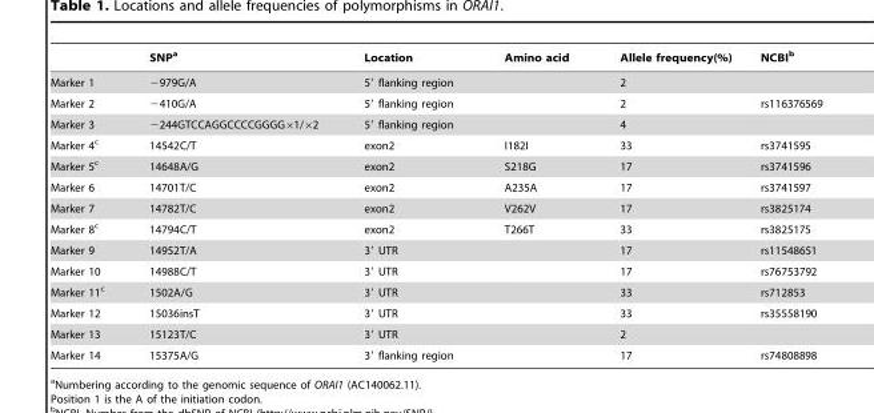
<table><thead><tr><td></td><td>SNP<sup>a</sup></td><td>Location</td><td>Amino acid</td><td>Allele frequency(%)</td><td>NCBI<sup>b</sup></td></tr></thead><tbody><tr><td>Marker 1</td><td>−979G/A</td><td>5′ flanking region</td><td></td><td>2</td><td></td></tr><tr><td>Marker 2</td><td>−410G/A</td><td>5′ flanking region</td><td></td><td>2</td><td>rs116376569</td></tr><tr><td>Marker 3</td><td>−244GTCCAGGCCCCGGGG×1/×2</td><td>5′ flanking region</td><td></td><td>4</td><td></td></tr><tr><td>Marker 4<sup>c</sup></td><td>14542C/T</td><td>exon2</td><td>I182I</td><td>33</td><td>rs3741595</td></tr><tr><td>Marker 5<sup>c</sup></td><td>14648A/G</td><td>exon2</td><td>S218G</td><td>17</td><td>rs3741596</td></tr><tr><td>Marker 6</td><td>14701T/C</td><td>exon2</td><td>A235A</td><td>17</td><td>rs3741597</td></tr><tr><td>Marker 7</td><td>14782T/C</td><td>exon2</td><td>V262V</td><td>17</td><td>rs3825174</td></tr><tr><td>Marker 8<sup>c</sup></td><td>14794C/T</td><td>exon2</td><td>T266T</td><td>33</td><td>rs3825175</td></tr><tr><td>Marker 9</td><td>14952T/A</td><td>3′ UTR</td><td></td><td>17</td><td>rs11548651</td></tr><tr><td>Marker 10</td><td>14988C/T</td><td>3′ UTR</td><td></td><td>17</td><td>rs76753792</td></tr><tr><td>Marker 11<sup>c</sup></td><td>1502A/G</td><td>3′ UTR</td><td></td><td>33</td><td>rs712853</td></tr><tr><td>Marker 12</td><td>15036insT</td><td>3′ UTR</td><td></td><td>33</td><td>rs35558190</td></tr><tr><td>Marker 13</td><td>15123T/C</td><td>3′ UTR</td><td></td><td>2</td><td></td></tr><tr><td>Marker 14</td><td>15375A/G</td><td>3′ flanking region</td><td></td><td>17</td><td>rs74808898</td></tr></tbody></table>